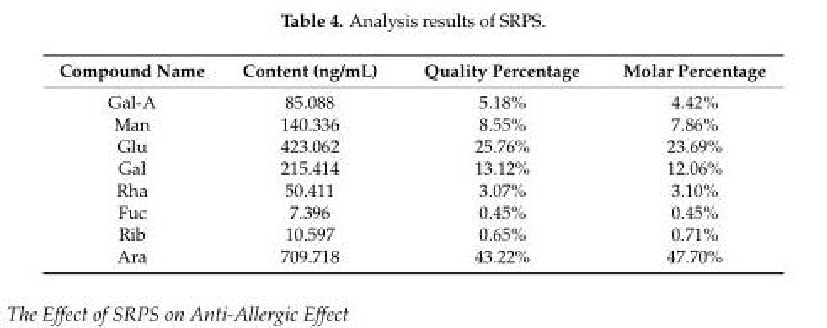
<table><thead><tr><td>Compound Name</td><td>Content (ng/mL)</td><td>Quality Percentage</td><td>Molar Percentage</td></tr></thead><tbody><tr><td>Gal-A</td><td>85.088</td><td>5.18%</td><td>4.42%</td></tr><tr><td>Man</td><td>140.336</td><td>8.55%</td><td>7.86%</td></tr><tr><td>Glu</td><td>423.062</td><td>25.76%</td><td>23.69%</td></tr><tr><td>Gal</td><td>215.414</td><td>13.12%</td><td>12.06%</td></tr><tr><td>Rha</td><td>50.411</td><td>3.07%</td><td>3.10%</td></tr><tr><td>Fuc</td><td>7.396</td><td>0.45%</td><td>0.45%</td></tr><tr><td>Rib</td><td>10.597</td><td>0.65%</td><td>0.71%</td></tr><tr><td>Ara</td><td>709.718</td><td>43.22%</td><td>47.70%</td></tr></tbody></table>